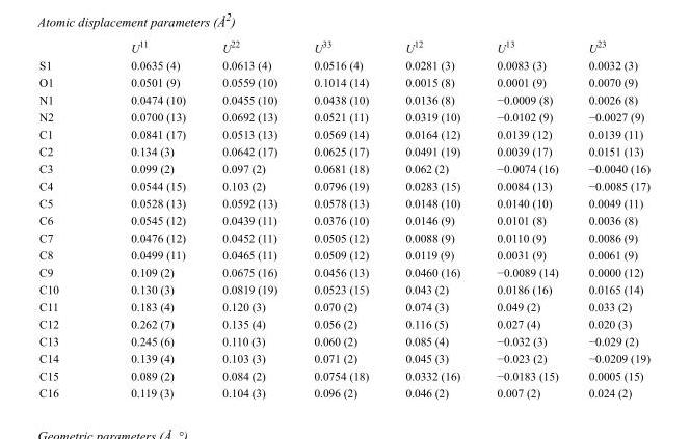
<table><thead><tr><td></td><td>U<sup>11</sup></td><td>U<sup>22</sup></td><td>U<sup>33</sup></td><td>U<sup>12</sup></td><td>U<sup>13</sup></td><td>U<sup>23</sup></td></tr></thead><tbody><tr><td>S1</td><td>0.0635 (4)</td><td>0.0613 (4)</td><td>0.0516 (4)</td><td>0.0281 (3)</td><td>0.0083 (3)</td><td>0.0032 (3)</td></tr><tr><td>O1</td><td>0.0501 (9)</td><td>0.0559 (10)</td><td>0.1014 (14)</td><td>0.0015 (8)</td><td>0.0001 (9)</td><td>0.0070 (9)</td></tr><tr><td>N1</td><td>0.0474 (10)</td><td>0.0455 (10)</td><td>0.0438 (10)</td><td>0.0136 (8)</td><td>−0.0009 (8)</td><td>0.0026 (8)</td></tr><tr><td>N2</td><td>0.0700 (13)</td><td>0.0692 (13)</td><td>0.0521 (11)</td><td>0.0319 (10)</td><td>−0.0102 (9)</td><td>−0.0027 (9)</td></tr><tr><td>C1</td><td>0.0841 (17)</td><td>0.0513 (13)</td><td>0.0569 (14)</td><td>0.0164 (12)</td><td>0.0139 (12)</td><td>0.0139 (11)</td></tr><tr><td>C2</td><td>0.134 (3)</td><td>0.0642 (17)</td><td>0.0625 (17)</td><td>0.0491 (19)</td><td>0.0039 (17)</td><td>0.0151 (13)</td></tr><tr><td>C3</td><td>0.099 (2)</td><td>0.097 (2)</td><td>0.0681 (18)</td><td>0.062 (2)</td><td>−0.0074 (16)</td><td>−0.0040 (16)</td></tr><tr><td>C4</td><td>0.0544 (15)</td><td>0.103 (2)</td><td>0.0796 (19)</td><td>0.0283 (15)</td><td>0.0084 (13)</td><td>−0.0085 (17)</td></tr><tr><td>C5</td><td>0.0528 (13)</td><td>0.0592 (13)</td><td>0.0578 (13)</td><td>0.0148 (10)</td><td>0.0140 (10)</td><td>0.0049 (11)</td></tr><tr><td>C6</td><td>0.0545 (12)</td><td>0.0439 (11)</td><td>0.0376 (10)</td><td>0.0146 (9)</td><td>0.0101 (8)</td><td>0.0036 (8)</td></tr><tr><td>C7</td><td>0.0476 (12)</td><td>0.0452 (11)</td><td>0.0505 (12)</td><td>0.0088 (9)</td><td>0.0110 (9)</td><td>0.0086 (9)</td></tr><tr><td>C8</td><td>0.0499 (11)</td><td>0.0465 (11)</td><td>0.0509 (12)</td><td>0.0119 (9)</td><td>0.0031 (9)</td><td>0.0061 (9)</td></tr><tr><td>C9</td><td>0.109 (2)</td><td>0.0675 (16)</td><td>0.0456 (13)</td><td>0.0460 (16)</td><td>−0.0089 (14)</td><td>0.0000 (12)</td></tr><tr><td>C10</td><td>0.130 (3)</td><td>0.0819 (19)</td><td>0.0523 (15)</td><td>0.043 (2)</td><td>0.0186 (16)</td><td>0.0165 (14)</td></tr><tr><td>C11</td><td>0.183 (4)</td><td>0.120 (3)</td><td>0.070 (2)</td><td>0.074 (3)</td><td>0.049 (2)</td><td>0.033 (2)</td></tr><tr><td>C12</td><td>0.262 (7)</td><td>0.135 (4)</td><td>0.056 (2)</td><td>0.116 (5)</td><td>0.027 (4)</td><td>0.020 (3)</td></tr><tr><td>C13</td><td>0.245 (6)</td><td>0.110 (3)</td><td>0.060 (2)</td><td>0.085 (4)</td><td>−0.032 (3)</td><td>−0.029 (2)</td></tr><tr><td>C14</td><td>0.139 (4)</td><td>0.103 (3)</td><td>0.071 (2)</td><td>0.045 (3)</td><td>−0.023 (2)</td><td>−0.0209 (19)</td></tr><tr><td>C15</td><td>0.089 (2)</td><td>0.084 (2)</td><td>0.0754 (18)</td><td>0.0332 (16)</td><td>−0.0183 (15)</td><td>0.0005 (15)</td></tr><tr><td>C16</td><td>0.119 (3)</td><td>0.104 (3)</td><td>0.096 (2)</td><td>0.046 (2)</td><td>0.007 (2)</td><td>0.024 (2)</td></tr></tbody></table>